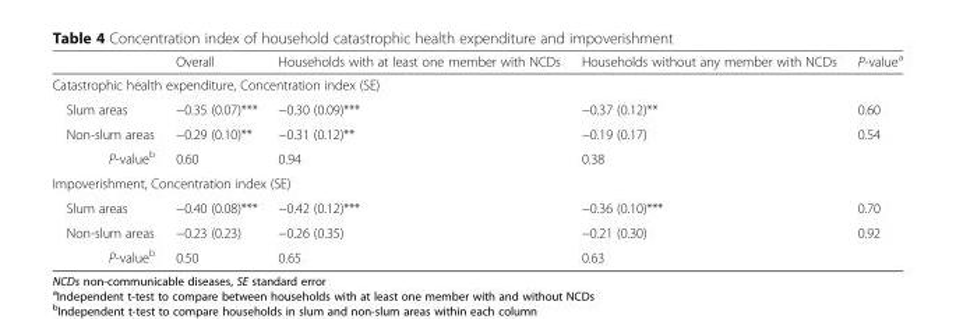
<table><thead><tr><td></td><td>Overall</td><td>Households with at least one member with NCDs</td><td>Households without any member with NCDs</td><td>P-value<sup>a</sup></td></tr></thead><tbody><tr><td colspan="5">Catastrophic health expenditure, Concentration index (SE)</td></tr><tr><td>Slum areas</td><td>−0.35 (0.07)***</td><td>−0.30 (0.09)***</td><td>−0.37 (0.12)**</td><td>0.60</td></tr><tr><td>Non-slum areas</td><td>−0.29 (0.10)**</td><td>−0.31 (0.12)**</td><td>−0.19 (0.17)</td><td>0.54</td></tr><tr><td>P-value<sup>b</sup></td><td>0.60</td><td>0.94</td><td>0.38</td><td></td></tr><tr><td colspan="5">Impoverishment, Concentration index (SE)</td></tr><tr><td>Slum areas</td><td>−0.40 (0.08)***</td><td>−0.42 (0.12)***</td><td>−0.36 (0.10)***</td><td>0.70</td></tr><tr><td>Non-slum areas</td><td>−0.23 (0.23)</td><td>−0.26 (0.35)</td><td>−0.21 (0.30)</td><td>0.92</td></tr><tr><td>P-value<sup>b</sup></td><td>0.50</td><td>0.65</td><td>0.63</td><td></td></tr></tbody></table>